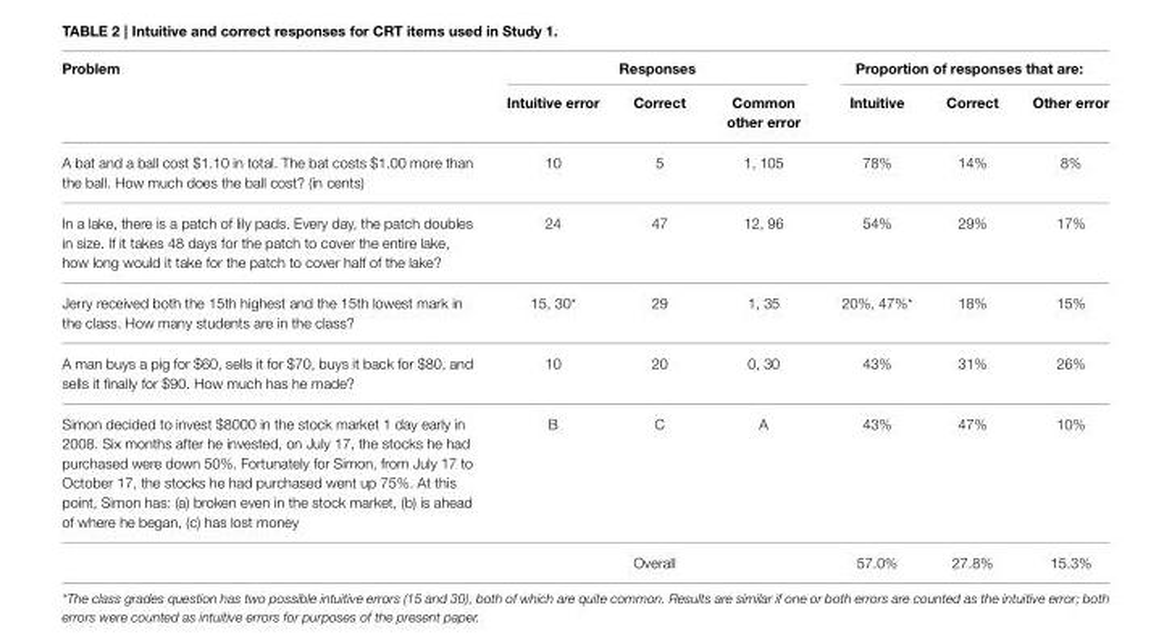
<table><thead><tr><td rowspan="2">Problem</td><td colspan="3">Responses</td><td colspan="3">Proportion of responses that are:</td></tr><tr><td>Intuitive error</td><td>Correct</td><td>Common other error</td><td>Intuitive</td><td>Correct</td><td>Other error</td></tr></thead><tbody><tr><td>A bat and a ball cost $1.10 in total. The bat costs $1.00 more than the ball. How much does the ball cost? (in cents)</td><td>10</td><td>5</td><td>1, 105</td><td>78%</td><td>14%</td><td>8%</td></tr><tr><td>In a lake, there is a patch of lily pads. Every day, the patch doubles in size. If it takes 48 days for the patch to cover the entire lake, how long would it take for the patch to cover half of the lake?</td><td>24</td><td>47</td><td>12, 96</td><td>54%</td><td>29%</td><td>17%</td></tr><tr><td>Jerry received both the 15th highest and the 15th lowest mark in the class. How many students are in the class?</td><td>15, 30*</td><td>29</td><td>1, 35</td><td>20%, 47%*</td><td>18%</td><td>15%</td></tr><tr><td>A man buys a pig for $60, sells it for $70, buys it back for $80, and sells it finally for $90. How much has he made?</td><td>10</td><td>20</td><td>0, 30</td><td>43%</td><td>31%</td><td>26%</td></tr><tr><td rowspan="2">Simon decided to invest $8000 in the stock market 1 day early in 2008. Six months after he invested, on July 17, the stocks he had purchased were down 50%. Fortunately for Simon, from July 17 to October 17, the stocks he had purchased went up 75%. At this point, Simon has: (a) broken even in the stock market, (b) is ahead of where he began, (c) has lost money</td><td>B</td><td>C</td><td>A</td><td>43%</td><td>47%</td><td>10%</td></tr><tr><td></td><td>Overall</td><td></td><td>57.0%</td><td>27.8%</td><td>15.3%</td></tr></tbody></table>